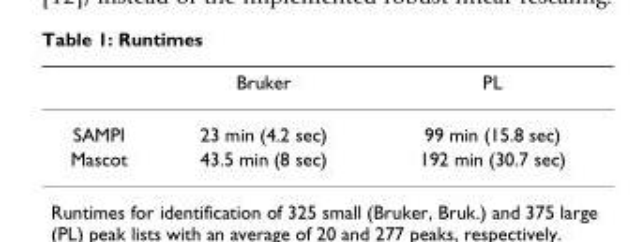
<table><thead><tr><td></td><td>Bruker</td><td>PL</td></tr></thead><tbody><tr><td>SAMPI</td><td>23 min (4.2 sec)</td><td>99 min (15.8 sec)</td></tr><tr><td>Mascot</td><td>43.5 min (8 sec)</td><td>192 min (30.7 sec)</td></tr></tbody></table>